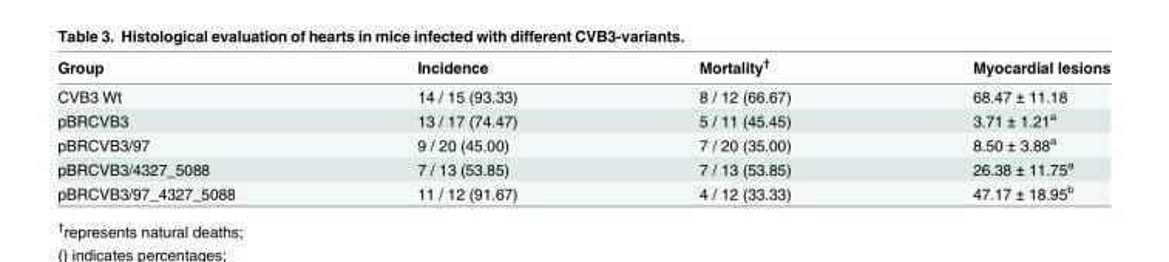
<table><thead><tr><td>Group</td><td>Incidence</td><td>Mortality<sup>†</sup></td><td>Myocardial lesions</td></tr></thead><tbody><tr><td>CVB3 Wt</td><td>14 / 15 (93.33)</td><td>8 / 12 (66.67)</td><td>68.47 ± 11.18</td></tr><tr><td>pBRCVB3</td><td>13 / 17 (74.47)</td><td>5 / 11 (45.45)</td><td>3.71 ± 1.21<sup>a</sup></td></tr><tr><td>pBRCVB3/97</td><td>9 / 20 (45.00)</td><td>7 / 20 (35.00)</td><td>8.50 ± 3.88<sup>a</sup></td></tr><tr><td>pBRCVB3/4327_5088</td><td>7 / 13 (53.85)</td><td>7 / 13 (53.85)</td><td>26.38 ± 11.75<sup>a</sup></td></tr><tr><td>pBRCVB3/97_4327_5088</td><td>11 / 12 (91.67)</td><td>4 / 12 (33.33)</td><td>47.17 ± 18.95<sup>b</sup></td></tr></tbody></table>